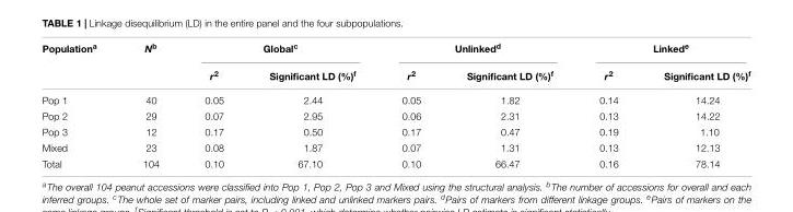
<table><thead><tr><td rowspan="2">Population<sup>a</sup></td><td rowspan="2">N<sup>b</sup></td><td colspan="2">Global<sup>c</sup></td><td colspan="2">Unlinked<sup>d</sup></td><td colspan="2">Linked<sup>e</sup></td></tr><tr><td>r<sup>2</sup></td><td>Significant LD (%)<sup>f</sup></td><td>r<sup>2</sup></td><td>Significant LD (%)<sup>f</sup></td><td>r<sup>2</sup></td><td>Significant LD (%)<sup>f</sup></td></tr></thead><tbody><tr><td>Pop 1</td><td>40</td><td>0.05</td><td>2.44</td><td>0.05</td><td>1.82</td><td>0.14</td><td>14.24</td></tr><tr><td>Pop 2</td><td>29</td><td>0.07</td><td>2.95</td><td>0.06</td><td>2.31</td><td>0.13</td><td>14.22</td></tr><tr><td>Pop 3</td><td>12</td><td>0.17</td><td>0.50</td><td>0.17</td><td>0.47</td><td>0.19</td><td>1.10</td></tr><tr><td>Mixed</td><td>23</td><td>0.08</td><td>1.87</td><td>0.07</td><td>1.31</td><td>0.13</td><td>12.13</td></tr><tr><td>Total</td><td>104</td><td>0.10</td><td>67.10</td><td>0.10</td><td>66.47</td><td>0.16</td><td>78.14</td></tr></tbody></table>